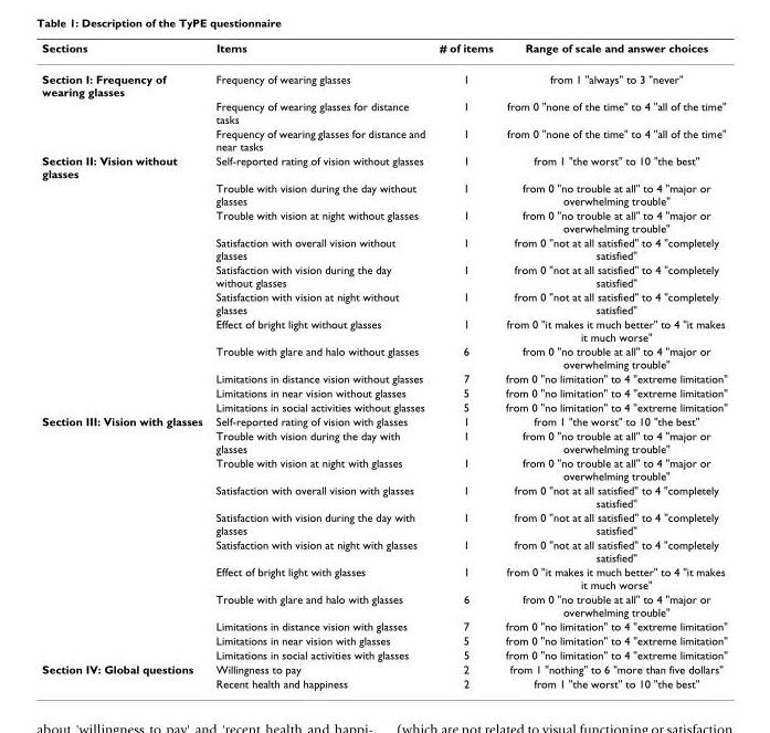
<table><thead><tr><td>Sections</td><td>Items</td><td># of items</td><td>Range of scale and answer choices</td></tr></thead><tbody><tr><td rowspan="3">Section I: Frequency of wearing glasses</td><td>Frequency of wearing glasses</td><td>1</td><td>from 1 &quot;always&quot; to 3 &quot;never&quot;</td></tr><tr><td>Frequency of wearing glasses for distance tasks</td><td>1</td><td>from 0 &quot;none of the time&quot; to 4 &quot;all of the time&quot;</td></tr><tr><td>Frequency of wearing glasses for distance and near tasks</td><td>1</td><td>from 0 &quot;none of the time&quot; to 4 &quot;all of the time&quot;</td></tr><tr><td rowspan="11">Section II: Vision without glasses</td><td>Self-reported rating of vision without glasses</td><td>1</td><td>from 1 &quot;the worst&quot; to 10 &quot;the best&quot;</td></tr><tr><td>Trouble with vision during the day without glasses</td><td>1</td><td>from 0 &quot;no trouble at all&quot; to 4 &quot;major or overwhelming trouble&quot;</td></tr><tr><td>Trouble with vision at night without glasses</td><td>1</td><td>from 0 &quot;no trouble at all&quot; to 4 &quot;major or overwhelming trouble&quot;</td></tr><tr><td>Satisfaction with overall vision without glasses</td><td>1</td><td>from 0 &quot;not at all satisfied&quot; to 4 &quot;completely satisfied&quot;</td></tr><tr><td>Satisfaction with vision during the day without glasses</td><td>1</td><td>from 0 &quot;not at all satisfied&quot; to 4 &quot;completely satisfied&quot;</td></tr><tr><td>Satisfaction with vision at night without glasses</td><td>1</td><td>from 0 &quot;not at all satisfied&quot; to 4 &quot;completely satisfied&quot;</td></tr><tr><td>Effect of bright light without glasses</td><td>1</td><td>from 0 &quot;it makes it much better&quot; to 4 &quot;it makes it much worse&quot;</td></tr><tr><td>Trouble with glare and halo without glasses</td><td>6</td><td>from 0 &quot;no trouble at all&quot; to 4 &quot;major or overwhelming trouble&quot;</td></tr><tr><td>Limitations in distance vision without glasses</td><td>7</td><td>from 0 &quot;no limitation&quot; to 4 &quot;extreme limitation&quot;</td></tr><tr><td>Limitations in near vision without glasses</td><td>5</td><td>from 0 &quot;no limitation&quot; to 4 &quot;extreme limitation&quot;</td></tr><tr><td>Limitations in social activities without glasses</td><td>5</td><td>from 0 &quot;no limitation&quot; to 4 &quot;extreme limitation&quot;</td></tr><tr><td rowspan="11">Section III: Vision with glasses</td><td>Self-reported rating of vision with glasses</td><td>1</td><td>from 1 &quot;the worst&quot; to 10 &quot;the best&quot;</td></tr><tr><td>Trouble with vision during the day with glasses</td><td>1</td><td>from 0 &quot;no trouble at all&quot; to 4 &quot;major or overwhelming trouble&quot;</td></tr><tr><td>Trouble with vision at night with glasses</td><td>1</td><td>from 0 &quot;no trouble at all&quot; to 4 &quot;major or overwhelming trouble&quot;</td></tr><tr><td>Satisfaction with overall vision with glasses</td><td>1</td><td>from 0 &quot;not at all satisfied&quot; to 4 &quot;completely satisfied&quot;</td></tr><tr><td>Satisfaction with vision during the day with glasses</td><td>1</td><td>from 0 &quot;not at all satisfied&quot; to 4 &quot;completely satisfied&quot;</td></tr><tr><td>Satisfaction with vision at night with glasses</td><td>1</td><td>from 0 &quot;not at all satisfied&quot; to 4 &quot;completely satisfied&quot;</td></tr><tr><td>Effect of bright light with glasses</td><td>1</td><td>from 0 &quot;it makes it much better&quot; to 4 &quot;it makes it much worse&quot;</td></tr><tr><td>Trouble with glare and halo with glasses</td><td>6</td><td>from 0 &quot;no trouble at all&quot; to 4 &quot;major or overwhelming trouble&quot;</td></tr><tr><td>Limitations in distance vision with glasses</td><td>7</td><td>from 0 &quot;no limitation&quot; to 4 &quot;extreme limitation&quot;</td></tr><tr><td>Limitations in near vision with glasses</td><td>5</td><td>from 0 &quot;no limitation&quot; to 4 &quot;extreme limitation&quot;</td></tr><tr><td>Limitations in social activities with glasses</td><td>5</td><td>from 0 &quot;no limitation&quot; to 4 &quot;extreme limitation&quot;</td></tr><tr><td rowspan="2">Section IV: Global questions</td><td>Willingness to pay</td><td>2</td><td>from 1 &quot;nothing&quot; to 6 &quot;more than five dollars&quot;</td></tr><tr><td>Recent health and happiness</td><td>2</td><td>from 1 &quot;the worst&quot; to 10 &quot;the best&quot;</td></tr></tbody></table>